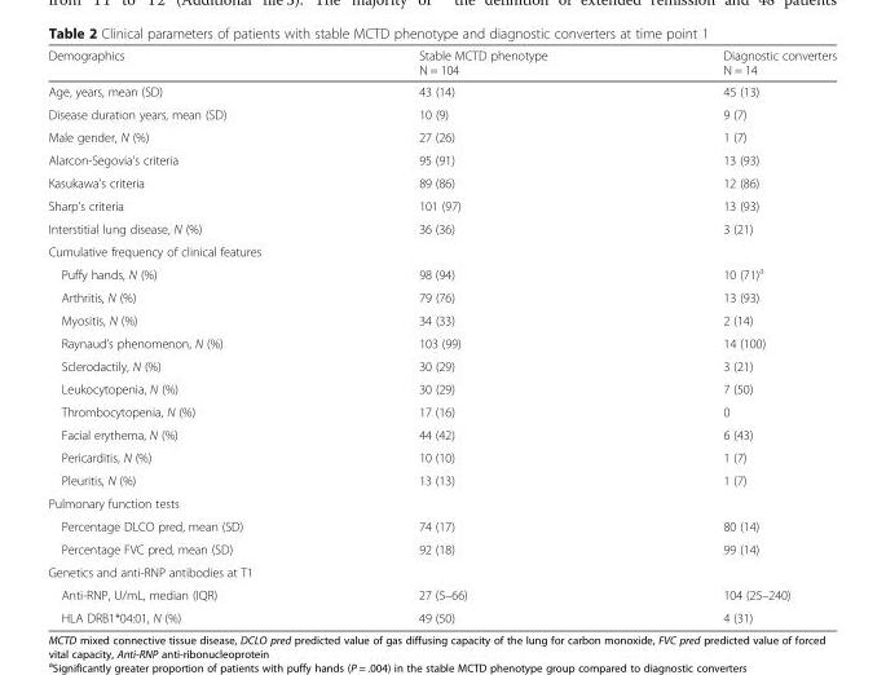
<table><thead><tr><td>Demographics</td><td>Stable MCTD phenotype N = 104</td><td>Diagnostic converters N = 14</td></tr></thead><tbody><tr><td>Age, years, mean (SD)</td><td>43 (14)</td><td>45 (13)</td></tr><tr><td>Disease duration years, mean (SD)</td><td>10 (9)</td><td>9 (7)</td></tr><tr><td>Male gender, N (%)</td><td>27 (26)</td><td>1 (7)</td></tr><tr><td>Alarcon-Segovia’s criteria</td><td>95 (91)</td><td>13 (93)</td></tr><tr><td>Kasukawa’s criteria</td><td>89 (86)</td><td>12 (86)</td></tr><tr><td>Sharp’s criteria</td><td>101 (97)</td><td>13 (93)</td></tr><tr><td>Interstitial lung disease, N (%)</td><td>36 (36)</td><td>3 (21)</td></tr><tr><td colspan="3">Cumulative frequency of clinical features</td></tr><tr><td>Puffy hands, N (%)</td><td>98 (94)</td><td>10 (71)<sup>a</sup></td></tr><tr><td>Arthritis, N (%)</td><td>79 (76)</td><td>13 (93)</td></tr><tr><td>Myositis, N (%)</td><td>34 (33)</td><td>2 (14)</td></tr><tr><td>Raynaud’s phenomenon, N (%)</td><td>103 (99)</td><td>14 (100)</td></tr><tr><td>Sclerodactily, N (%)</td><td>30 (29)</td><td>3 (21)</td></tr><tr><td>Leukocytopenia, N (%)</td><td>30 (29)</td><td>7 (50)</td></tr><tr><td>Thrombocytopenia, N (%)</td><td>17 (16)</td><td>0</td></tr><tr><td>Facial erythema, N (%)</td><td>44 (42)</td><td>6 (43)</td></tr><tr><td>Pericarditis, N (%)</td><td>10 (10)</td><td>1 (7)</td></tr><tr><td>Pleuritis, N (%)</td><td>13 (13)</td><td>1 (7)</td></tr><tr><td colspan="3">Pulmonary function tests</td></tr><tr><td>Percentage DLCO pred, mean (SD)</td><td>74 (17)</td><td>80 (14)</td></tr><tr><td>Percentage FVC pred, mean (SD)</td><td>92 (18)</td><td>99 (14)</td></tr><tr><td colspan="3">Genetics and anti-RNP antibodies at T1</td></tr><tr><td>Anti-RNP, U/mL, median (IQR)</td><td>27 (5–66)</td><td>104 (25–240)</td></tr><tr><td>HLA DRB1*04:01, N (%)</td><td>49 (50)</td><td>4 (31)</td></tr></tbody></table>